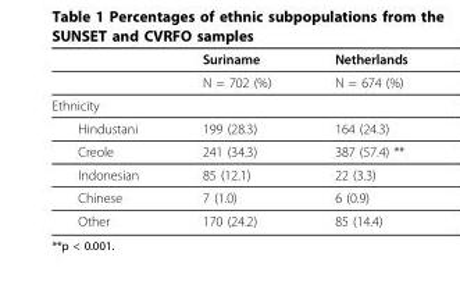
<table><thead><tr><td></td><td>Suriname</td><td>Netherlands</td></tr></thead><tbody><tr><td></td><td>N = 702 (%)</td><td>N = 674 (%)</td></tr><tr><td colspan="3">Ethnicity</td></tr><tr><td>Hindustani</td><td>199 (28.3)</td><td>164 (24.3)</td></tr><tr><td>Creole</td><td>241 (34.3)</td><td>387 (57.4) **</td></tr><tr><td>Indonesian</td><td>85 (12.1)</td><td>22 (3.3)</td></tr><tr><td>Chinese</td><td>7 (1.0)</td><td>6 (0.9)</td></tr><tr><td>Other</td><td>170 (24.2)</td><td>85 (14.4)</td></tr></tbody></table>